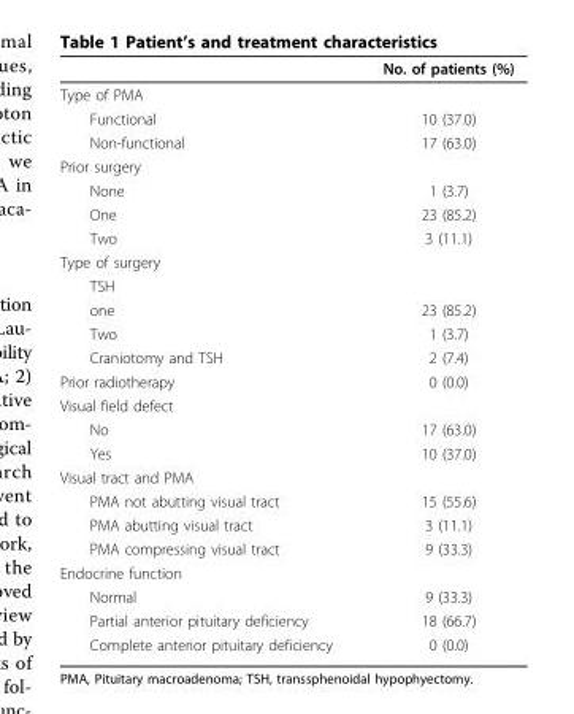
<table><thead><tr><td></td><td>No. of patients (%)</td></tr></thead><tbody><tr><td colspan="2">Type of PMA</td></tr><tr><td>Functional</td><td>10 (37.0)</td></tr><tr><td>Non-functional</td><td>17 (63.0)</td></tr><tr><td colspan="2">Prior surgery</td></tr><tr><td>None</td><td>1 (3.7)</td></tr><tr><td>One</td><td>23 (85.2)</td></tr><tr><td>Two</td><td>3 (11.1)</td></tr><tr><td colspan="2">Type of surgery</td></tr><tr><td colspan="2">TSH</td></tr><tr><td>one</td><td>23 (85.2)</td></tr><tr><td>Two</td><td>1 (3.7)</td></tr><tr><td>Craniotomy and TSH</td><td>2 (7.4)</td></tr><tr><td>Prior radiotherapy</td><td>0 (0.0)</td></tr><tr><td colspan="2">Visual field defect</td></tr><tr><td>No</td><td>17 (63.0)</td></tr><tr><td>Yes</td><td>10 (37.0)</td></tr><tr><td colspan="2">Visual tract and PMA</td></tr><tr><td>PMA not abutting visual tract</td><td>15 (55.6)</td></tr><tr><td>PMA abutting visual tract</td><td>3 (11.1)</td></tr><tr><td>PMA compressing visual tract</td><td>9 (33.3)</td></tr><tr><td colspan="2">Endocrine function</td></tr><tr><td>Normal</td><td>9 (33.3)</td></tr><tr><td>Partial anterior pituitary deficiency</td><td>18 (66.7)</td></tr><tr><td>Complete anterior pituitary deficiency</td><td>0 (0.0)</td></tr></tbody></table>